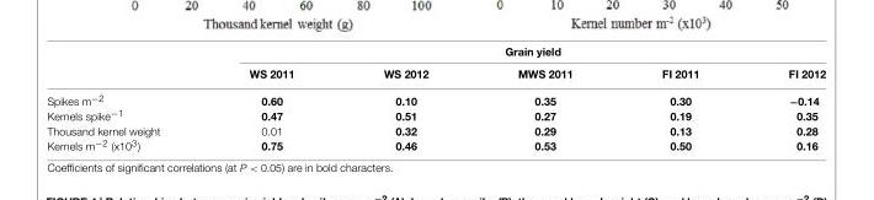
<table><thead><tr><td rowspan="2"></td><td colspan="5">Grain yield</td></tr><tr><td>WS 2011</td><td>WS 2012</td><td>MWS 2011</td><td>FI 2011</td><td>FI 2012</td></tr></thead><tbody><tr><td>Spikes m<sup>−2</sup></td><td>0.60</td><td>0.10</td><td>0.35</td><td>0.30</td><td>−0.14</td></tr><tr><td>Kernels spike<sup>−1</sup></td><td>0.47</td><td>0.51</td><td>0.27</td><td>0.19</td><td>0.35</td></tr><tr><td>Thousand kernel weight</td><td>0.01</td><td>0.32</td><td>0.29</td><td>0.13</td><td>0.28</td></tr><tr><td>Kernels m<sup>−2</sup> (x10<sup>3</sup>)</td><td>0.75</td><td>0.46</td><td>0.53</td><td>0.50</td><td>0.16</td></tr></tbody></table>